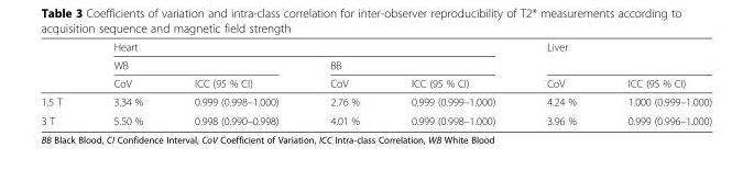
<table><thead><tr><td rowspan="3"></td><td colspan="4">Heart</td><td rowspan="2" colspan="2">Liver</td></tr><tr><td colspan="2">WB</td><td colspan="2">BB</td></tr><tr><td>CoV</td><td>ICC (95 % CI)</td><td>CoV</td><td>ICC (95 % CI)</td><td>CoV</td><td>ICC (95 % CI)</td></tr></thead><tbody><tr><td>1.5 T</td><td>3.34 %</td><td>0.999 (0.998–1.000)</td><td>2.76 %</td><td>0.999 (0.999–1.000)</td><td>4.24 %</td><td>1.000 (0.999–1.000)</td></tr><tr><td>3 T</td><td>5.50 %</td><td>0.998 (0.990–0.998)</td><td>4.01 %</td><td>0.999 (0.998–1.000)</td><td>3.96 %</td><td>0.999 (0.996–1.000)</td></tr></tbody></table>